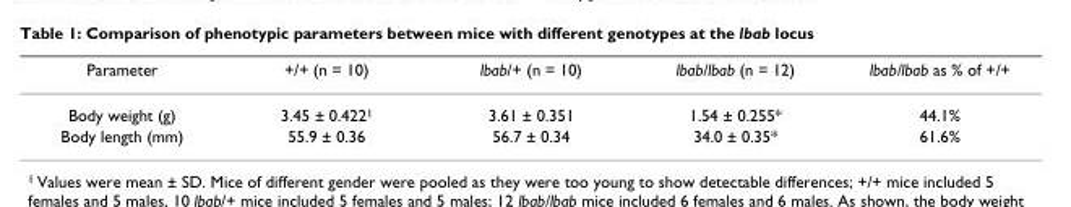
<table><thead><tr><td>Parameter</td><td>+/+ (n = 10)</td><td>lbab/+ (n = 10)</td><td>lbab/lbab (n = 12)</td><td>lbab/lbab as % of +/+</td></tr></thead><tbody><tr><td>Body weight (g)</td><td>3.45 ± 0.422<sup>1</sup></td><td>3.61 ± 0.351</td><td>1.54 ± 0.255*</td><td>44.1%</td></tr><tr><td>Body length (mm)</td><td>55.9 ± 0.36</td><td>56.7 ± 0.34</td><td>34.0 ± 0.35*</td><td>61.6%</td></tr></tbody></table>